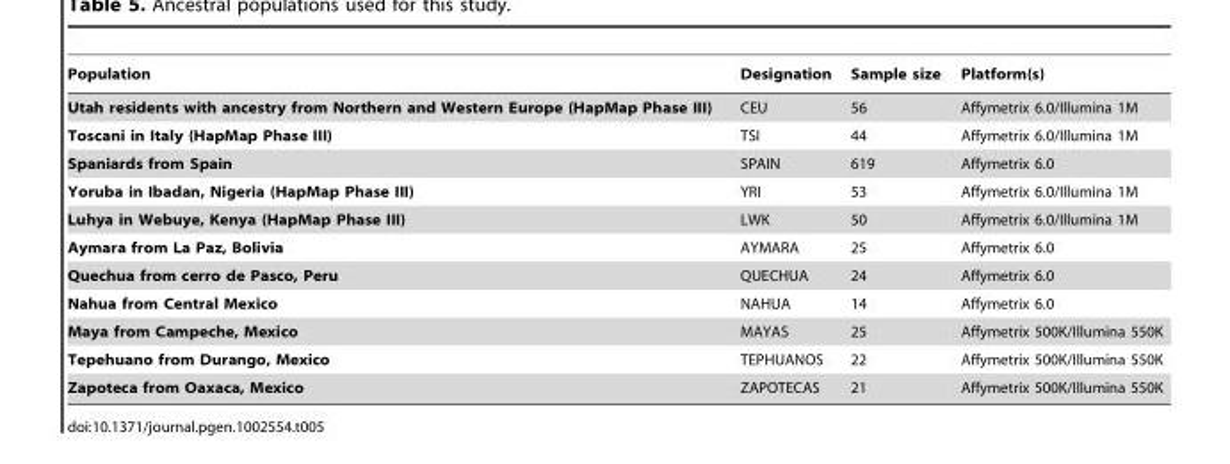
<table><thead><tr><td>Population</td><td>Designation</td><td>Sample size</td><td>Platform(s)</td></tr></thead><tbody><tr><td>Utah residents with ancestry from Northern and Western Europe (HapMap Phase III)</td><td>CEU</td><td>56</td><td>Affymetrix 6.0/Illumina 1M</td></tr><tr><td>Toscani in Italy (HapMap Phase III)</td><td>TSI</td><td>44</td><td>Affymetrix 6.0/Illumina 1M</td></tr><tr><td>Spaniards from Spain</td><td>SPAIN</td><td>619</td><td>Affymetrix 6.0</td></tr><tr><td>Yoruba in Ibadan, Nigeria (HapMap Phase III)</td><td>YRI</td><td>53</td><td>Affymetrix 6.0/Illumina 1M</td></tr><tr><td>Luhya in Webuye, Kenya (HapMap Phase III)</td><td>LWK</td><td>50</td><td>Affymetrix 6.0/Illumina 1M</td></tr><tr><td>Aymara from La Paz, Bolivia</td><td>AYMARA</td><td>25</td><td>Affymetrix 6.0</td></tr><tr><td>Quechua from cerro de Pasco, Peru</td><td>QUECHUA</td><td>24</td><td>Affymetrix 6.0</td></tr><tr><td>Nahua from Central Mexico</td><td>NAHUA</td><td>14</td><td>Affymetrix 6.0</td></tr><tr><td>Maya from Campeche, Mexico</td><td>MAYAS</td><td>25</td><td>Affymetrix 500K/Illumina 550K</td></tr><tr><td>Tepehuano from Durango, Mexico</td><td>TEPHUANOS</td><td>22</td><td>Affymetrix 500K/Illumina 550K</td></tr><tr><td>Zapoteca from Oaxaca, Mexico</td><td>ZAPOTECAS</td><td>21</td><td>Affymetrix 500K/Illumina 550K</td></tr></tbody></table>